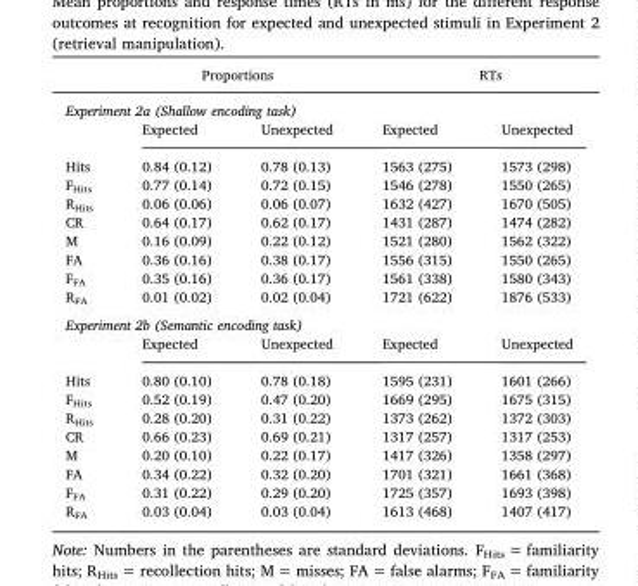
<table><thead><tr><td></td><td colspan="2">Proportions</td><td colspan="2">RTs</td></tr><tr><td colspan="5">Experiment 2a (Shallow encoding task)</td></tr><tr><td></td><td>Expected</td><td>Unexpected</td><td>Expected</td><td>Unexpected</td></tr></thead><tbody><tr><td>Hits</td><td>0.84 (0.12)</td><td>0.78 (0.13)</td><td>1563 (275)</td><td>1573 (298)</td></tr><tr><td>F<sub>Hits</sub></td><td>0.77 (0.14)</td><td>0.72 (0.15)</td><td>1546 (278)</td><td>1550 (265)</td></tr><tr><td>R<sub>Hits</sub></td><td>0.06 (0.06)</td><td>0.06 (0.07)</td><td>1632 (427)</td><td>1670 (505)</td></tr><tr><td>CR</td><td>0.64 (0.17)</td><td>0.62 (0.17)</td><td>1431 (287)</td><td>1474 (282)</td></tr><tr><td>M</td><td>0.16 (0.09)</td><td>0.22 (0.12)</td><td>1521 (280)</td><td>1562 (322)</td></tr><tr><td>FA</td><td>0.36 (0.16)</td><td>0.38 (0.17)</td><td>1556 (315)</td><td>1550 (265)</td></tr><tr><td>F<sub>FA</sub></td><td>0.35 (0.16)</td><td>0.36 (0.17)</td><td>1561 (338)</td><td>1580 (343)</td></tr><tr><td>R<sub>FA</sub></td><td>0.01 (0.02)</td><td>0.02 (0.04)</td><td>1721 (622)</td><td>1876 (533)</td></tr><tr><td colspan="5">Experiment 2b (Semantic encoding task)</td></tr><tr><td></td><td>Expected</td><td>Unexpected</td><td>Expected</td><td>Unexpected</td></tr><tr><td>Hits</td><td>0.80 (0.10)</td><td>0.78 (0.18)</td><td>1595 (231)</td><td>1601 (266)</td></tr><tr><td>F<sub>Hits</sub></td><td>0.52 (0.19)</td><td>0.47 (0.20)</td><td>1669 (295)</td><td>1675 (315)</td></tr><tr><td>R<sub>Hits</sub></td><td>0.28 (0.20)</td><td>0.31 (0.22)</td><td>1373 (262)</td><td>1372 (303)</td></tr><tr><td>CR</td><td>0.66 (0.23)</td><td>0.69 (0.21)</td><td>1317 (257)</td><td>1317 (253)</td></tr><tr><td>M</td><td>0.20 (0.10)</td><td>0.22 (0.17)</td><td>1417 (326)</td><td>1358 (297)</td></tr><tr><td>FA</td><td>0.34 (0.22)</td><td>0.32 (0.20)</td><td>1701 (321)</td><td>1661 (368)</td></tr><tr><td>F<sub>FA</sub></td><td>0.31 (0.22)</td><td>0.29 (0.20)</td><td>1725 (357)</td><td>1693 (398)</td></tr><tr><td>R<sub>FA</sub></td><td>0.03 (0.04)</td><td>0.03 (0.04)</td><td>1613 (468)</td><td>1407 (417)</td></tr></tbody></table>